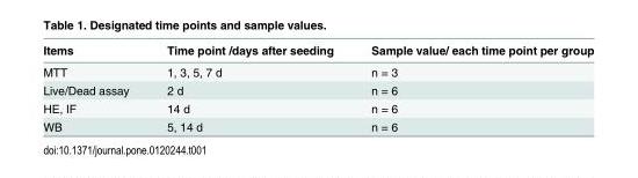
<table><thead><tr><td>Items</td><td>Time point /days after seeding</td><td>Sample value/ each time point per group</td></tr></thead><tbody><tr><td>MTT</td><td>1, 3, 5, 7 d</td><td>n = 3</td></tr><tr><td>Live/Dead assay</td><td>2 d</td><td>n = 6</td></tr><tr><td>HE, IF</td><td>14 d</td><td>n = 6</td></tr><tr><td>WB</td><td>5, 14 d</td><td>n = 6</td></tr></tbody></table>